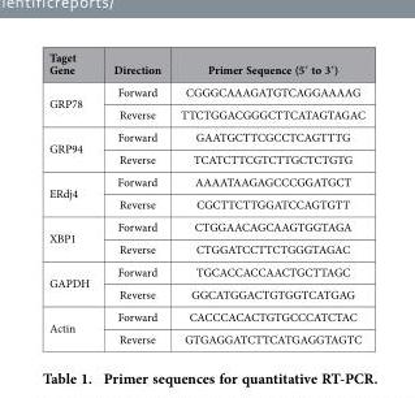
<table><thead><tr><td>Taget Gene</td><td>Direction</td><td>Primer Sequence (5′ to 3′)</td></tr></thead><tbody><tr><td rowspan="2">GRP78</td><td>Forward</td><td>CGGGCAAAGATGTCAGGAAAAG</td></tr><tr><td>Reverse</td><td>TTCTGGACGGGCTTCATAGTAGAC</td></tr><tr><td rowspan="2">GRP94</td><td>Forward</td><td>GAATGCTTCGCCTCAGTTTG</td></tr><tr><td>Reverse</td><td>TCATCTTCGTCTTGCTCTGTG</td></tr><tr><td rowspan="2">ERdj4</td><td>Forward</td><td>AAAATAAGAGCCCGGATGCT</td></tr><tr><td>Reverse</td><td>CGCTTCTTGGATCCAGTGTT</td></tr><tr><td rowspan="2">XBP1</td><td>Forward</td><td>CTGGAACAGCAAGTGGTAGA</td></tr><tr><td>Reverse</td><td>CTGGATCCTTCTGGGTAGAC</td></tr><tr><td rowspan="2">GAPDH</td><td>Forward</td><td>TGCACCACCAACTGCTTAGC</td></tr><tr><td>Reverse</td><td>GGCATGGACTGTGGTCATGAG</td></tr><tr><td rowspan="2">Actin</td><td>Forward</td><td>CACCCACACTGTGCCCATCTAC</td></tr><tr><td>Reverse</td><td>GTGAGGATCTTCATGAGGTAGTC</td></tr></tbody></table>